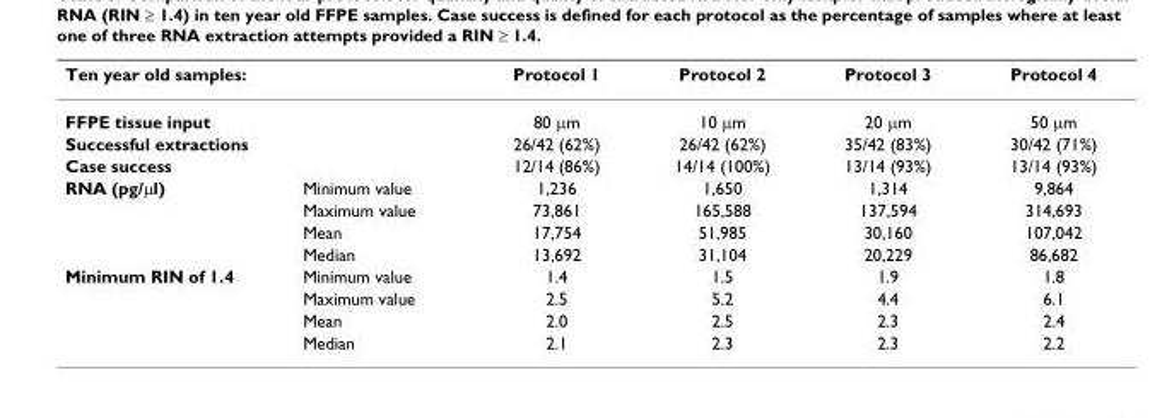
<table><thead><tr><td>Ten year old samples:</td><td></td><td>Protocol 1</td><td>Protocol 2</td><td>Protocol 3</td><td>Protocol 4</td></tr></thead><tbody><tr><td>FFPE tissue input</td><td></td><td>80 μm</td><td>10 μm</td><td>20 μm</td><td>50 μm</td></tr><tr><td>Successful extractions</td><td></td><td>26/42 (62%)</td><td>26/42 (62%)</td><td>35/42 (83%)</td><td>30/42 (71%)</td></tr><tr><td>Case success</td><td></td><td>12/14 (86%)</td><td>14/14 (100%)</td><td>13/14 (93%)</td><td>13/14 (93%)</td></tr><tr><td rowspan="4">RNA (pg/μl)</td><td>Minimum value</td><td>1,236</td><td>1,650</td><td>1,314</td><td>9,864</td></tr><tr><td>Maximum value</td><td>73,861</td><td>165,588</td><td>137,594</td><td>314,693</td></tr><tr><td>Mean</td><td>17,754</td><td>51,985</td><td>30,160</td><td>107,042</td></tr><tr><td>Median</td><td>13,692</td><td>31,104</td><td>20,229</td><td>86,682</td></tr><tr><td rowspan="4">Minimum RIN of 1.4</td><td>Minimum value</td><td>1.4</td><td>1.5</td><td>1.9</td><td>1.8</td></tr><tr><td>Maximum value</td><td>2.5</td><td>5.2</td><td>4.4</td><td>6.1</td></tr><tr><td>Mean</td><td>2.0</td><td>2.5</td><td>2.3</td><td>2.4</td></tr><tr><td>Median</td><td>2.1</td><td>2.3</td><td>2.3</td><td>2.2</td></tr></tbody></table>